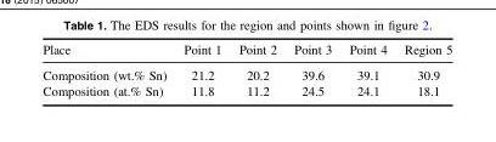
<table><thead><tr><td>Place</td><td>Point 1</td><td>Point 2</td><td>Point 3</td><td>Point 4</td><td>Region 5</td></tr></thead><tbody><tr><td>Composition (wt.% Sn)</td><td>21.2</td><td>20.2</td><td>39.6</td><td>39.1</td><td>30.9</td></tr><tr><td>Composition (at.% Sn)</td><td>11.8</td><td>11.2</td><td>24.5</td><td>24.1</td><td>18.1</td></tr></tbody></table>